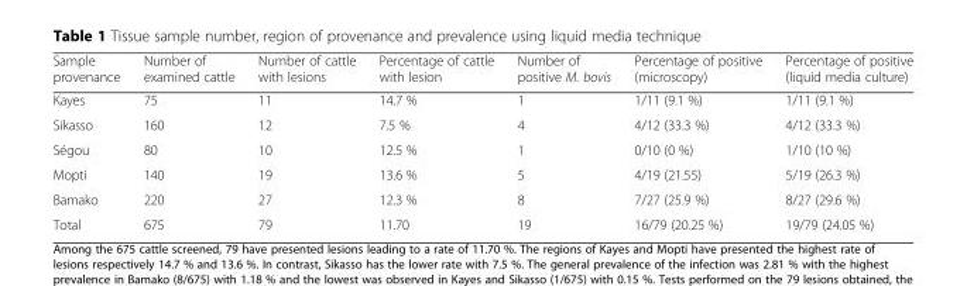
<table><thead><tr><td>Sample provenance</td><td>Number of examined cattle</td><td>Number of cattle with lesions</td><td>Percentage of cattle with lesion</td><td>Number of positive M. bovis</td><td>Percentage of positive (microscopy)</td><td>Percentage of positive (liquid media culture)</td></tr></thead><tbody><tr><td>Kayes</td><td>75</td><td>11</td><td>14.7 %</td><td>1</td><td>1/11 (9.1 %)</td><td>1/11 (9.1 %)</td></tr><tr><td>Sikasso</td><td>160</td><td>12</td><td>7.5 %</td><td>4</td><td>4/12 (33.3 %)</td><td>4/12 (33.3 %)</td></tr><tr><td>Ségou</td><td>80</td><td>10</td><td>12.5 %</td><td>1</td><td>0/10 (0 %)</td><td>1/10 (10 %)</td></tr><tr><td>Mopti</td><td>140</td><td>19</td><td>13.6 %</td><td>5</td><td>4/19 (21.55)</td><td>5/19 (26.3 %)</td></tr><tr><td>Bamako</td><td>220</td><td>27</td><td>12.3 %</td><td>8</td><td>7/27 (25.9 %)</td><td>8/27 (29.6 %)</td></tr><tr><td>Total</td><td>675</td><td>79</td><td>11.70</td><td>19</td><td>16/79 (20.25 %)</td><td>19/79 (24.05 %)</td></tr></tbody></table>